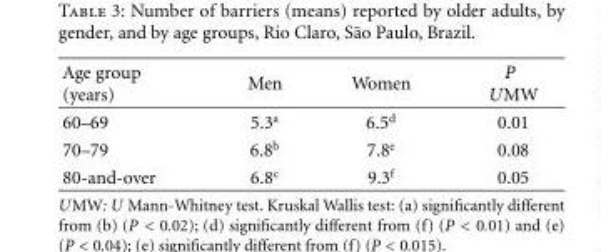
<table><thead><tr><td>Age group (years)</td><td>Men</td><td>Women</td><td>P UMW</td></tr></thead><tbody><tr><td>60–69</td><td>5.3<sup>a</sup></td><td>6.5<sup>d</sup></td><td>0.01</td></tr><tr><td>70–79</td><td>6.8<sup>b</sup></td><td>7.8<sup>e</sup></td><td>0.08</td></tr><tr><td>80-and-over</td><td>6.8<sup>c</sup></td><td>9.3<sup>f</sup></td><td>0.05</td></tr></tbody></table>